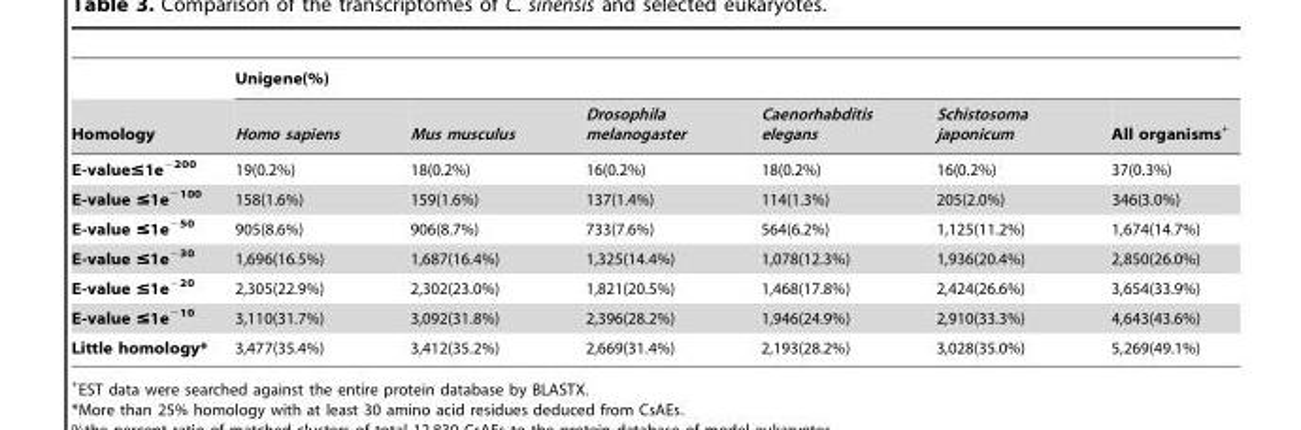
<table><thead><tr><td rowspan="2">Homology</td><td colspan="6">Unigene(%)</td></tr><tr><td>Homo sapiens</td><td>Mus musculus</td><td>Drosophila melanogaster</td><td>Caenorhabditis elegans</td><td>Schistosoma japonicum</td><td>All organisms+</td></tr></thead><tbody><tr><td>E-value≤1e<sup>−200</sup></td><td>19(0.2%)</td><td>18(0.2%)</td><td>16(0.2%)</td><td>18(0.2%)</td><td>16(0.2%)</td><td>37(0.3%)</td></tr><tr><td>E-value ≤1e<sup>−100</sup></td><td>158(1.6%)</td><td>159(1.6%)</td><td>137(1.4%)</td><td>114(1.3%)</td><td>205(2.0%)</td><td>346(3.0%)</td></tr><tr><td>E-value ≤1e<sup>−50</sup></td><td>905(8.6%)</td><td>906(8.7%)</td><td>733(7.6%)</td><td>564(6.2%)</td><td>1,125(11.2%)</td><td>1,674(14.7%)</td></tr><tr><td>E-value ≤1e<sup>−30</sup></td><td>1,696(16.5%)</td><td>1,687(16.4%)</td><td>1,325(14.4%)</td><td>1,078(12.3%)</td><td>1,936(20.4%)</td><td>2,850(26.0%)</td></tr><tr><td>E-value ≤1e<sup>−20</sup></td><td>2,305(22.9%)</td><td>2,302(23.0%)</td><td>1,821(20.5%)</td><td>1,468(17.8%)</td><td>2,424(26.6%)</td><td>3,654(33.9%)</td></tr><tr><td>E-value ≤1e<sup>−10</sup></td><td>3,110(31.7%)</td><td>3,092(31.8%)</td><td>2,396(28.2%)</td><td>1,946(24.9%)</td><td>2,910(33.3%)</td><td>4,643(43.6%)</td></tr><tr><td>Little homology*</td><td>3,477(35.4%)</td><td>3,412(35.2%)</td><td>2,669(31.4%)</td><td>2,193(28.2%)</td><td>3,028(35.0%)</td><td>5,269(49.1%)</td></tr></tbody></table>